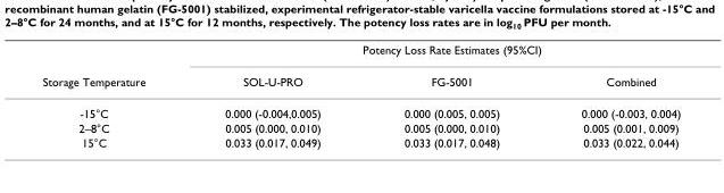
<table><thead><tr><td rowspan="2">Storage Temperature</td><td colspan="3">Potency Loss Rate Estimates (95%CI)</td></tr><tr><td>SOL-U-PRO</td><td>FG-5001</td><td>Combined</td></tr></thead><tbody><tr><td>-15°C</td><td>0.000 (-0.004,0.005)</td><td>0.000 (0.005, 0.005)</td><td>0.000 (-0.003, 0.004)</td></tr><tr><td>2–8°C</td><td>0.005 (0.000, 0.010)</td><td>0.005 (0.000, 0.010)</td><td>0.005 (0.001, 0.009)</td></tr><tr><td>15°C</td><td>0.033 (0.017, 0.049)</td><td>0.033 (0.017, 0.048)</td><td>0.033 (0.022, 0.044)</td></tr></tbody></table>